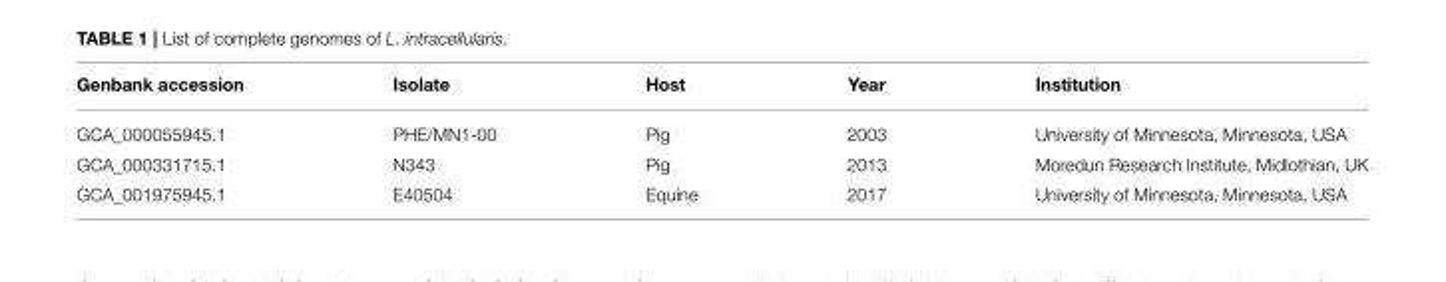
<table><thead><tr><td>Genbank accession</td><td>Isolate</td><td>Host</td><td>Year</td><td>Institution</td></tr></thead><tbody><tr><td>GCA_000055945.1</td><td>PHE/MN1-00</td><td>Pig</td><td>2003</td><td>University of Minnesota, Minnesota, USA</td></tr><tr><td>GCA_000331715.1</td><td>N343</td><td>Pig</td><td>2013</td><td>Moredun Research Institute, Midlothian, UK</td></tr><tr><td>GCA_001975945.1</td><td>E40504</td><td>Equine</td><td>2017</td><td>University of Minnesota, Minnesota, USA</td></tr></tbody></table>